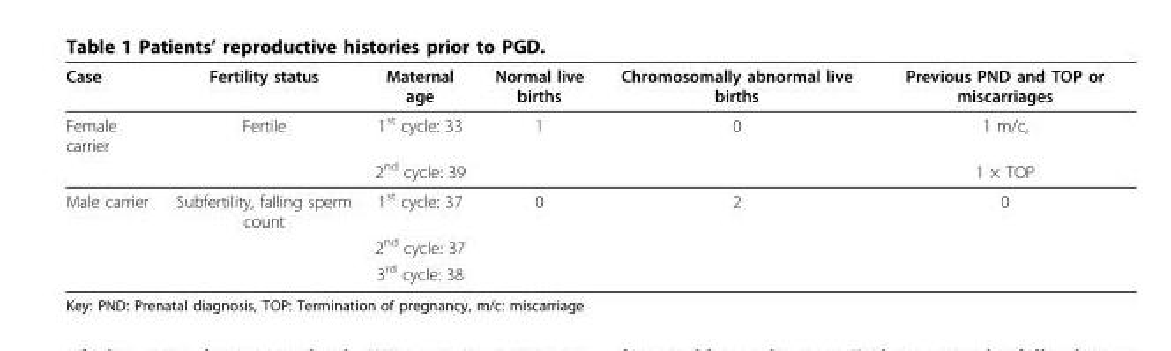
<table><thead><tr><td>Case</td><td>Fertility status</td><td>Maternal age</td><td>Normal live births</td><td>Chromosomally abnormal live births</td><td>Previous PND and TOP or miscarriages</td></tr></thead><tbody><tr><td rowspan="2">Female carrier</td><td>Fertile</td><td>1<sup>st</sup> cycle: 33</td><td>1</td><td>0</td><td>1 m/c,</td></tr><tr><td></td><td>2<sup>nd</sup> cycle: 39</td><td></td><td></td><td>1 × TOP</td></tr><tr><td rowspan="3">Male carrier</td><td>Subfertility, falling sperm count</td><td>1<sup>st</sup> cycle: 37</td><td>0</td><td>2</td><td>0</td></tr><tr><td></td><td>2<sup>nd</sup> cycle: 37</td><td></td><td></td><td></td></tr><tr><td></td><td>3<sup>rd</sup> cycle: 38</td><td></td><td></td><td></td></tr></tbody></table>